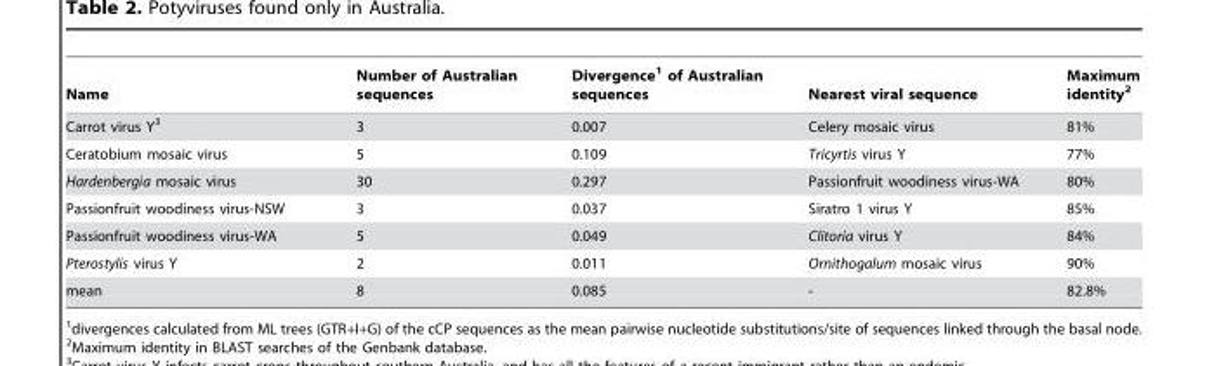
<table><thead><tr><td>Name</td><td>Number of Australian sequences</td><td>Divergence<sup>1</sup> of Australian sequences</td><td>Nearest viral sequence</td><td>Maximum identity<sup>2</sup></td></tr></thead><tbody><tr><td>Carrot virus Y<sup>3</sup></td><td>3</td><td>0.007</td><td>Celery mosaic virus</td><td>81%</td></tr><tr><td>Ceratobium mosaic virus</td><td>5</td><td>0.109</td><td>Tricyrtis virus Y</td><td>77%</td></tr><tr><td>Hardenbergia mosaic virus</td><td>30</td><td>0.297</td><td>Passionfruit woodiness virus-WA</td><td>80%</td></tr><tr><td>Passionfruit woodiness virus-NSW</td><td>3</td><td>0.037</td><td>Siratro 1 virus Y</td><td>85%</td></tr><tr><td>Passionfruit woodiness virus-WA</td><td>5</td><td>0.049</td><td>Clitoria virus Y</td><td>84%</td></tr><tr><td>Pterostylis virus Y</td><td>2</td><td>0.011</td><td>Ornithogalum mosaic virus</td><td>90%</td></tr><tr><td>mean</td><td>8</td><td>0.085</td><td>-</td><td>82.8%</td></tr></tbody></table>